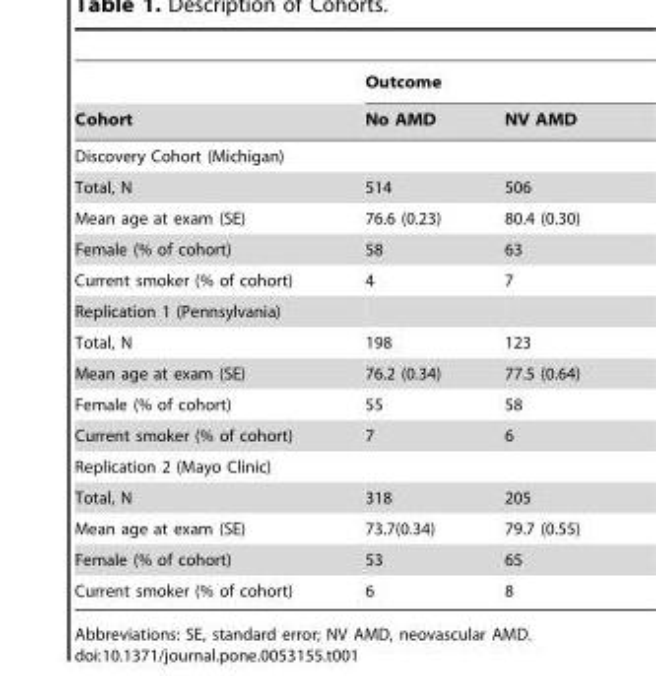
<table><thead><tr><td rowspan="2">Cohort</td><td colspan="2">Outcome</td></tr><tr><td>No AMD</td><td>NV AMD</td></tr></thead><tbody><tr><td colspan="3">Discovery Cohort (Michigan)</td></tr><tr><td>Total, N</td><td>514</td><td>506</td></tr><tr><td>Mean age at exam (SE)</td><td>76.6 (0.23)</td><td>80.4 (0.30)</td></tr><tr><td>Female (% of cohort)</td><td>58</td><td>63</td></tr><tr><td>Current smoker (% of cohort)</td><td>4</td><td>7</td></tr><tr><td colspan="3">Replication 1 (Pennsylvania)</td></tr><tr><td>Total, N</td><td>198</td><td>123</td></tr><tr><td>Mean age at exam (SE)</td><td>76.2 (0.34)</td><td>77.5 (0.64)</td></tr><tr><td>Female (% of cohort)</td><td>55</td><td>58</td></tr><tr><td>Current smoker (% of cohort)</td><td>7</td><td>6</td></tr><tr><td colspan="3">Replication 2 (Mayo Clinic)</td></tr><tr><td>Total, N</td><td>318</td><td>205</td></tr><tr><td>Mean age at exam (SE)</td><td>73.7(0.34)</td><td>79.7 (0.55)</td></tr><tr><td>Female (% of cohort)</td><td>53</td><td>65</td></tr><tr><td>Current smoker (% of cohort)</td><td>6</td><td>8</td></tr></tbody></table>